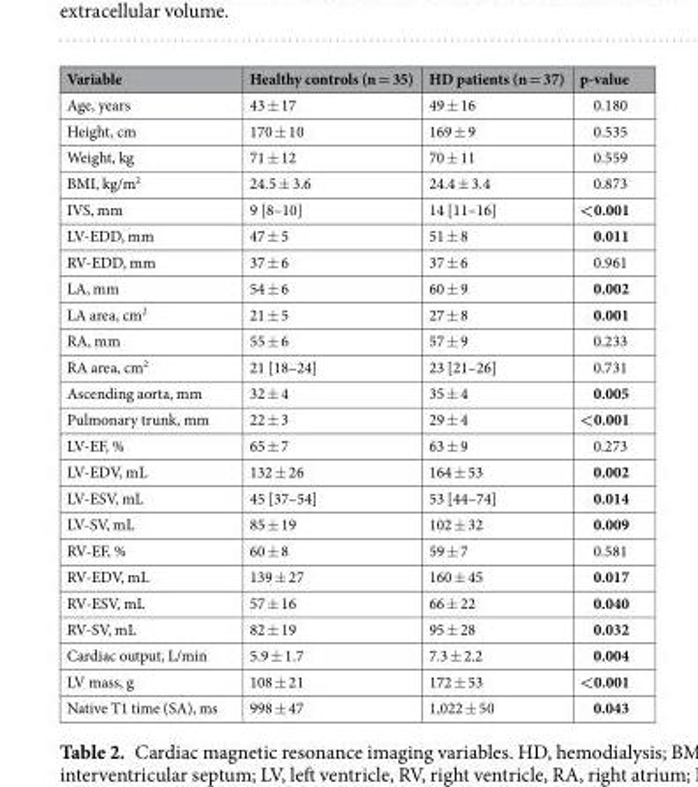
<table><thead><tr><td>Variable</td><td>Healthy controls (n = 35)</td><td>HD patients (n = 37)</td><td>p-value</td></tr></thead><tbody><tr><td>Age, years</td><td>43 ± 17</td><td>49 ± 16</td><td>0.180</td></tr><tr><td>Height, cm</td><td>170 ± 10</td><td>169 ± 9</td><td>0.535</td></tr><tr><td>Weight, kg</td><td>71 ± 12</td><td>70 ± 11</td><td>0.559</td></tr><tr><td>BMI, kg/m<sup>2</sup></td><td>24.5 ± 3.6</td><td>24.4 ± 3.4</td><td>0.873</td></tr><tr><td>IVS, mm</td><td>9 [8–10]</td><td>14 [11–16]</td><td>&lt;0.001</td></tr><tr><td>LV-EDD, mm</td><td>47 ± 5</td><td>51 ± 8</td><td>0.011</td></tr><tr><td>RV-EDD, mm</td><td>37 ± 6</td><td>37 ± 6</td><td>0.961</td></tr><tr><td>LA, mm</td><td>54 ± 6</td><td>60 ± 9</td><td>0.002</td></tr><tr><td>LA area, cm<sup>2</sup></td><td>21 ± 5</td><td>27 ± 8</td><td>0.001</td></tr><tr><td>RA, mm</td><td>55 ± 6</td><td>57 ± 9</td><td>0.233</td></tr><tr><td>RA area, cm<sup>2</sup></td><td>21 [18–24]</td><td>23 [21–26]</td><td>0.731</td></tr><tr><td>Ascending aorta, mm</td><td>32 ± 4</td><td>35 ± 4</td><td>0.005</td></tr><tr><td>Pulmonary trunk, mm</td><td>22 ± 3</td><td>29 ± 4</td><td>&lt;0.001</td></tr><tr><td>LV-EF, %</td><td>65 ± 7</td><td>63 ± 9</td><td>0.273</td></tr><tr><td>LV-EDV, mL</td><td>132 ± 26</td><td>164 ± 53</td><td>0.002</td></tr><tr><td>LV-ESV, mL</td><td>45 [37–54]</td><td>53 [44–74]</td><td>0.014</td></tr><tr><td>LV-SV, mL</td><td>85 ± 19</td><td>102 ± 32</td><td>0.009</td></tr><tr><td>RV-EF, %</td><td>60 ± 8</td><td>59 ± 7</td><td>0.581</td></tr><tr><td>RV-EDV, mL</td><td>139 ± 27</td><td>160 ± 45</td><td>0.017</td></tr><tr><td>RV-ESV, mL</td><td>57 ± 16</td><td>66 ± 22</td><td>0.040</td></tr><tr><td>RV-SV, mL</td><td>82 ± 19</td><td>95 ± 28</td><td>0.032</td></tr><tr><td>Cardiac output, L/min</td><td>5.9 ± 1.7</td><td>7.3 ± 2.2</td><td>0.004</td></tr><tr><td>LV mass, g</td><td>108 ± 21</td><td>172 ± 53</td><td>&lt;0.001</td></tr><tr><td>Native T1 time (SA), ms</td><td>998 ± 47</td><td>1,022 ± 50</td><td>0.043</td></tr></tbody></table>